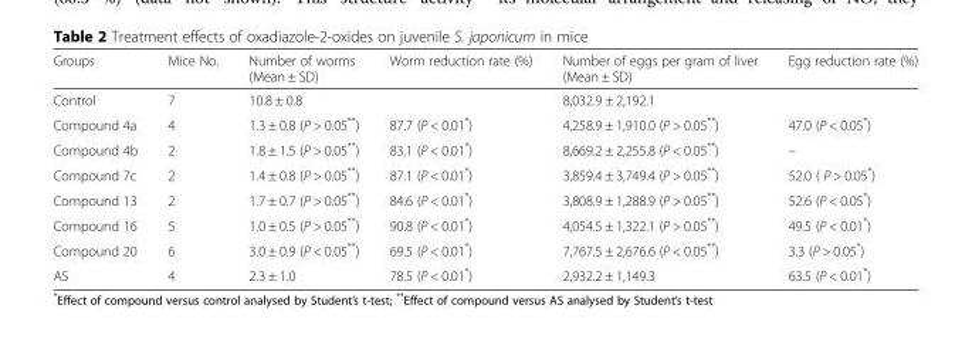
<table><thead><tr><td>Groups</td><td>Mice No.</td><td>Number of worms (Mean ± SD)</td><td>Worm reduction rate (%)</td><td>Number of eggs per gram of liver (Mean ± SD)</td><td>Egg reduction rate (%)</td></tr></thead><tbody><tr><td>Control</td><td>7</td><td>10.8 ± 0.8</td><td></td><td>8,032.9 ± 2,192.1</td><td></td></tr><tr><td>Compound 4a</td><td>4</td><td>1.3 ± 0.8 (P &gt; 0.05**)</td><td>87.7 (P &lt; 0.01*)</td><td>4,258.9 ± 1,910.0 (P &gt; 0.05**)</td><td>47.0 (P &lt; 0.05*)</td></tr><tr><td>Compound 4b</td><td>2</td><td>1.8 ± 1.5 (P &gt; 0.05**)</td><td>83.1 (P &lt; 0.01*)</td><td>8,669.2 ± 2,255.8 (P &lt; 0.05**)</td><td>–</td></tr><tr><td>Compound 7c</td><td>2</td><td>1.4 ± 0.8 (P &gt; 0.05**)</td><td>87.1 (P &lt; 0.01*)</td><td>3,859.4 ± 3,749.4 (P &gt; 0.05**)</td><td>52.0 ( P &gt; 0.05*)</td></tr><tr><td>Compound 13</td><td>2</td><td>1.7 ± 0.7 (P &gt; 0.05**)</td><td>84.6 (P &lt; 0.01*)</td><td>3,808.9 ± 1,288.9 (P &gt; 0.05**)</td><td>52.6 (P &lt; 0.05*)</td></tr><tr><td>Compound 16</td><td>5</td><td>1.0 ± 0.5 (P &gt; 0.05**)</td><td>90.8 (P &lt; 0.01*)</td><td>4,054.5 ± 1,322.1 (P &gt; 0.05**)</td><td>49.5 (P &lt; 0.01*)</td></tr><tr><td>Compound 20</td><td>6</td><td>3.0 ± 0.9 (P &lt; 0.05**)</td><td>69.5 (P &lt; 0.01*)</td><td>7,767.5 ± 2,676.6 (P &lt; 0.05**)</td><td>3.3 (P &gt; 0.05*)</td></tr><tr><td>AS</td><td>4</td><td>2.3 ± 1.0</td><td>78.5 (P &lt; 0.01*)</td><td>2,932.2 ± 1,149.3</td><td>63.5 (P &lt; 0.01*)</td></tr></tbody></table>